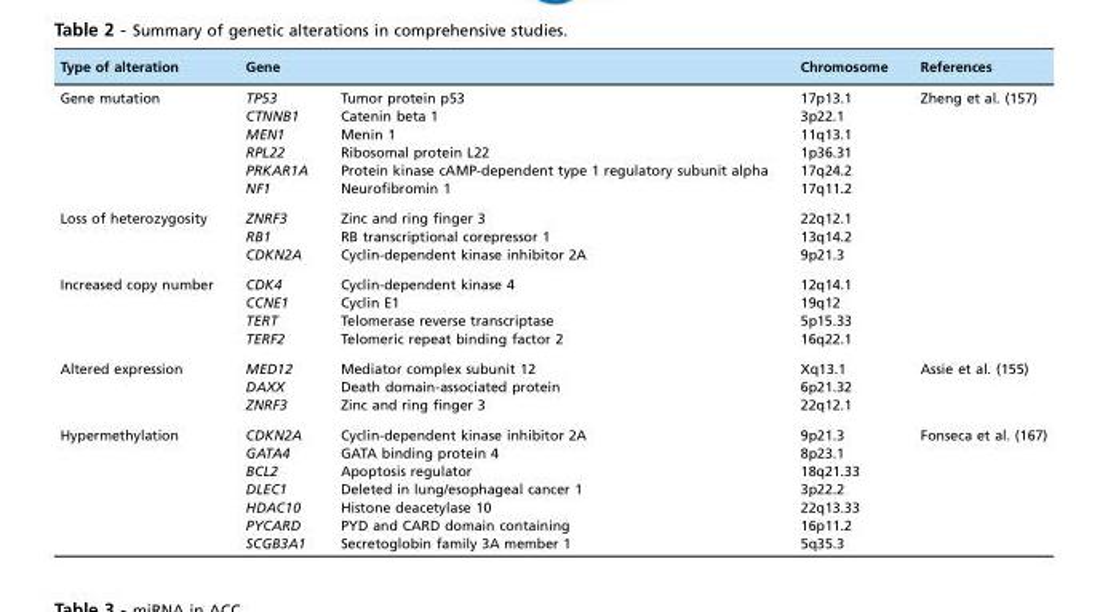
<table><thead><tr><td>Type of alteration</td><td>Gene</td><td></td><td>Chromosome</td><td>References</td></tr></thead><tbody><tr><td rowspan="6">Gene mutation</td><td>TP53</td><td>Tumor protein p53</td><td>17p13.1</td><td>Zheng et al. (157)</td></tr><tr><td>CTNNB1</td><td>Catenin beta 1</td><td>3p22.1</td><td></td></tr><tr><td>MEN1</td><td>Menin 1</td><td>11q13.1</td><td></td></tr><tr><td>RPL22</td><td>Ribosomal protein L22</td><td>1p36.31</td><td></td></tr><tr><td>PRKAR1A</td><td>Protein kinase cAMP-dependent type 1 regulatory subunit alpha</td><td>17q24.2</td><td></td></tr><tr><td>NF1</td><td>Neurofibromin 1</td><td>17q11.2</td><td></td></tr><tr><td rowspan="3">Loss of heterozygosity</td><td>ZNRF3</td><td>Zinc and ring finger 3</td><td>22q12.1</td><td></td></tr><tr><td>RB1</td><td>RB transcriptional corepressor 1</td><td>13q14.2</td><td></td></tr><tr><td>CDKN2A</td><td>Cyclin-dependent kinase inhibitor 2A</td><td>9p21.3</td><td></td></tr><tr><td rowspan="4">Increased copy number</td><td>CDK4</td><td>Cyclin-dependent kinase 4</td><td>12q14.1</td><td></td></tr><tr><td>CCNE1</td><td>Cyclin E1</td><td>19q12</td><td></td></tr><tr><td>TERT</td><td>Telomerase reverse transcriptase</td><td>5p15.33</td><td></td></tr><tr><td>TERF2</td><td>Telomeric repeat binding factor 2</td><td>16q22.1</td><td></td></tr><tr><td rowspan="3">Altered expression</td><td>MED12</td><td>Mediator complex subunit 12</td><td>Xq13.1</td><td>Assie et al. (155)</td></tr><tr><td>DAXX</td><td>Death domain-associated protein</td><td>6p21.32</td><td></td></tr><tr><td>ZNRF3</td><td>Zinc and ring finger 3</td><td>22q12.1</td><td></td></tr><tr><td rowspan="7">Hypermethylation</td><td>CDKN2A</td><td>Cyclin-dependent kinase inhibitor 2A</td><td>9p21.3</td><td>Fonseca et al. (167)</td></tr><tr><td>GATA4</td><td>GATA binding protein 4</td><td>8p23.1</td><td></td></tr><tr><td>BCL2</td><td>Apoptosis regulator</td><td>18q21.33</td><td></td></tr><tr><td>DLEC1</td><td>Deleted in lung/esophageal cancer 1</td><td>3p22.2</td><td></td></tr><tr><td>HDAC10</td><td>Histone deacetylase 10</td><td>22q13.33</td><td></td></tr><tr><td>PYCARD</td><td>PYD and CARD domain containing</td><td>16p11.2</td><td></td></tr><tr><td>SCGB3A1</td><td>Secretoglobin family 3A member 1</td><td>5q35.3</td><td></td></tr></tbody></table>